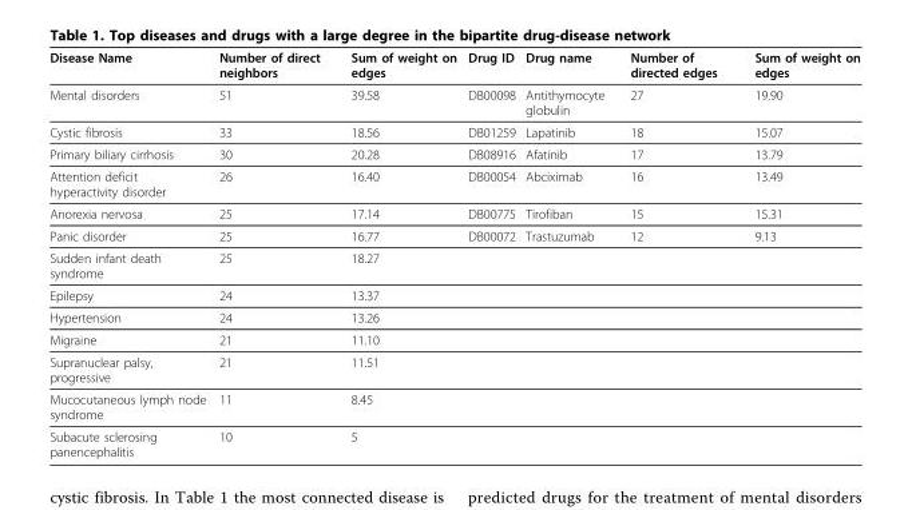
<table><thead><tr><td>Disease Name</td><td>Number of direct neighbors</td><td>Sum of weight on edges</td><td>Drug ID</td><td>Drug name</td><td>Number of directed edges</td><td>Sum of weight on edges</td></tr></thead><tbody><tr><td>Mental disorders</td><td>51</td><td>39.58</td><td>DB00098</td><td>Antithymocyte globulin</td><td>27</td><td>19.90</td></tr><tr><td>Cystic fibrosis</td><td>33</td><td>18.56</td><td>DB01259</td><td>Lapatinib</td><td>18</td><td>15.07</td></tr><tr><td>Primary biliary cirrhosis</td><td>30</td><td>20.28</td><td>DB08916</td><td>Afatinib</td><td>17</td><td>13.79</td></tr><tr><td>Attention deficit hyperactivity disorder</td><td>26</td><td>16.40</td><td>DB00054</td><td>Abciximab</td><td>16</td><td>13.49</td></tr><tr><td>Anorexia nervosa</td><td>25</td><td>17.14</td><td>DB00775</td><td>Tirofiban</td><td>15</td><td>15.31</td></tr><tr><td>Panic disorder</td><td>25</td><td>16.77</td><td>DB00072</td><td>Trastuzumab</td><td>12</td><td>9.13</td></tr><tr><td>Sudden infant death syndrome</td><td>25</td><td>18.27</td><td></td><td></td><td></td><td></td></tr><tr><td>Epilepsy</td><td>24</td><td>13.37</td><td></td><td></td><td></td><td></td></tr><tr><td>Hypertension</td><td>24</td><td>13.26</td><td></td><td></td><td></td><td></td></tr><tr><td>Migraine</td><td>21</td><td>11.10</td><td></td><td></td><td></td><td></td></tr><tr><td>Supranuclear palsy, progressive</td><td>21</td><td>11.51</td><td></td><td></td><td></td><td></td></tr><tr><td>Mucocutaneous lymph node syndrome</td><td>11</td><td>8.45</td><td></td><td></td><td></td><td></td></tr><tr><td>Subacute sclerosing panencephalitis</td><td>10</td><td>5</td><td></td><td></td><td></td><td></td></tr></tbody></table>